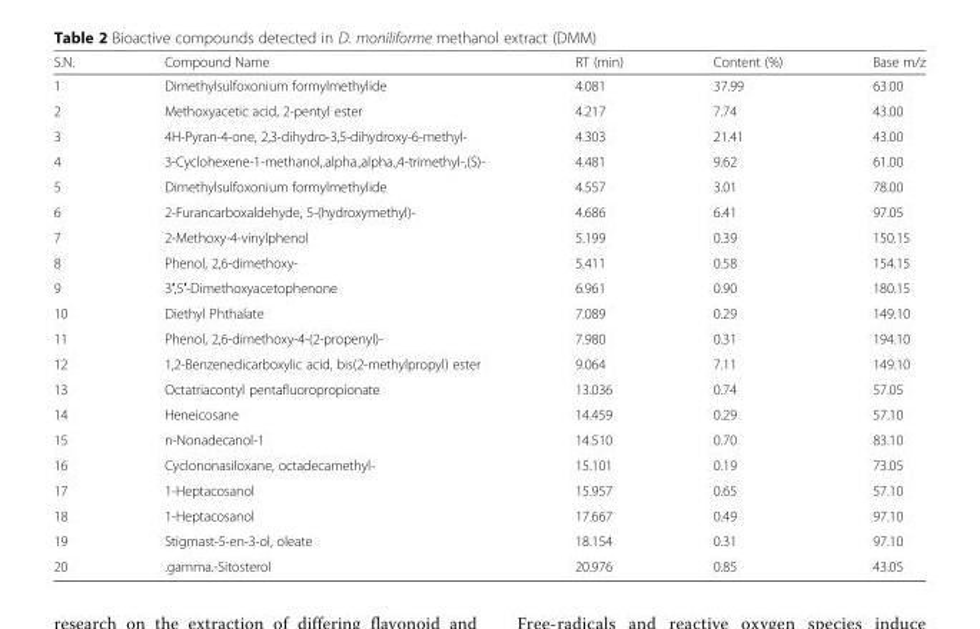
<table><thead><tr><td>S.N.</td><td>Compound Name</td><td>RT (min)</td><td>Content (%)</td><td>Base m/z</td></tr></thead><tbody><tr><td>1</td><td>Dimethylsulfoxonium formylmethylide</td><td>4.081</td><td>37.99</td><td>63.00</td></tr><tr><td>2</td><td>Methoxyacetic acid, 2-pentyl ester</td><td>4.217</td><td>7.74</td><td>43.00</td></tr><tr><td>3</td><td>4H-Pyran-4-one, 2,3-dihydro-3,5-dihydroxy-6-methyl-</td><td>4.303</td><td>21.41</td><td>43.00</td></tr><tr><td>4</td><td>3-Cyclohexene-1-methanol,.alpha.,alpha.,4-trimethyl-,(S)-</td><td>4.481</td><td>9.62</td><td>61.00</td></tr><tr><td>5</td><td>Dimethylsulfoxonium formylmethylide</td><td>4.557</td><td>3.01</td><td>78.00</td></tr><tr><td>6</td><td>2-Furancarboxaldehyde, 5-(hydroxymethyl)-</td><td>4.686</td><td>6.41</td><td>97.05</td></tr><tr><td>7</td><td>2-Methoxy-4-vinylphenol</td><td>5.199</td><td>0.39</td><td>150.15</td></tr><tr><td>8</td><td>Phenol, 2,6-dimethoxy-</td><td>5.411</td><td>0.58</td><td>154.15</td></tr><tr><td>9</td><td>3′,5′-Dimethoxyacetophenone</td><td>6.961</td><td>0.90</td><td>180.15</td></tr><tr><td>10</td><td>Diethyl Phthalate</td><td>7.089</td><td>0.29</td><td>149.10</td></tr><tr><td>11</td><td>Phenol, 2,6-dimethoxy-4-(2-propenyl)-</td><td>7.980</td><td>0.31</td><td>194.10</td></tr><tr><td>12</td><td>1,2-Benzenedicarboxylic acid, bis(2-methylpropyl) ester</td><td>9.064</td><td>7.11</td><td>149.10</td></tr><tr><td>13</td><td>Octatriacontyl pentafluoropropionate</td><td>13.036</td><td>0.74</td><td>57.05</td></tr><tr><td>14</td><td>Heneicosane</td><td>14.459</td><td>0.29</td><td>57.10</td></tr><tr><td>15</td><td>n-Nonadecanol-1</td><td>14.510</td><td>0.70</td><td>83.10</td></tr><tr><td>16</td><td>Cyclononasiloxane, octadecamethyl-</td><td>15.101</td><td>0.19</td><td>73.05</td></tr><tr><td>17</td><td>1-Heptacosanol</td><td>15.957</td><td>0.65</td><td>57.10</td></tr><tr><td>18</td><td>1-Heptacosanol</td><td>17.667</td><td>0.49</td><td>97.10</td></tr><tr><td>19</td><td>Stigmast-5-en-3-ol, oleate</td><td>18.154</td><td>0.31</td><td>97.10</td></tr><tr><td>20</td><td>.gamma.-Sitosterol</td><td>20.976</td><td>0.85</td><td>43.05</td></tr></tbody></table>